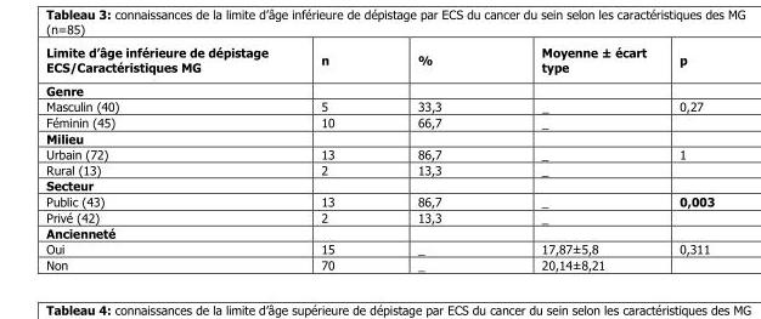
<table><thead><tr><td>Limite d’âge inférieure de dépistage ECS/Caractéristiques MG</td><td>n</td><td>%</td><td>Moyenne ± écart type</td><td>p</td></tr></thead><tbody><tr><td colspan="5">Genre</td></tr><tr><td>Masculin (40)</td><td>5</td><td>33,3</td><td>–</td><td>0,27</td></tr><tr><td>Féminin (45)</td><td>10</td><td>66,7</td><td>–</td><td></td></tr><tr><td colspan="5">Milieu</td></tr><tr><td>Urbain (72)</td><td>13</td><td>86,7</td><td>–</td><td>1</td></tr><tr><td>Rural (13)</td><td>2</td><td>13,3</td><td>–</td><td></td></tr><tr><td colspan="5">Secteur</td></tr><tr><td>Public (43)</td><td>13</td><td>86,7</td><td>–</td><td>0,003</td></tr><tr><td>Privé (42)</td><td>2</td><td>13,3</td><td>–</td><td></td></tr><tr><td colspan="5">Ancienneté</td></tr><tr><td>Oui</td><td>15</td><td>–</td><td>17,87±5,8</td><td>0,311</td></tr><tr><td>Non</td><td>70</td><td>–</td><td>20,14±8,21</td><td></td></tr></tbody></table>